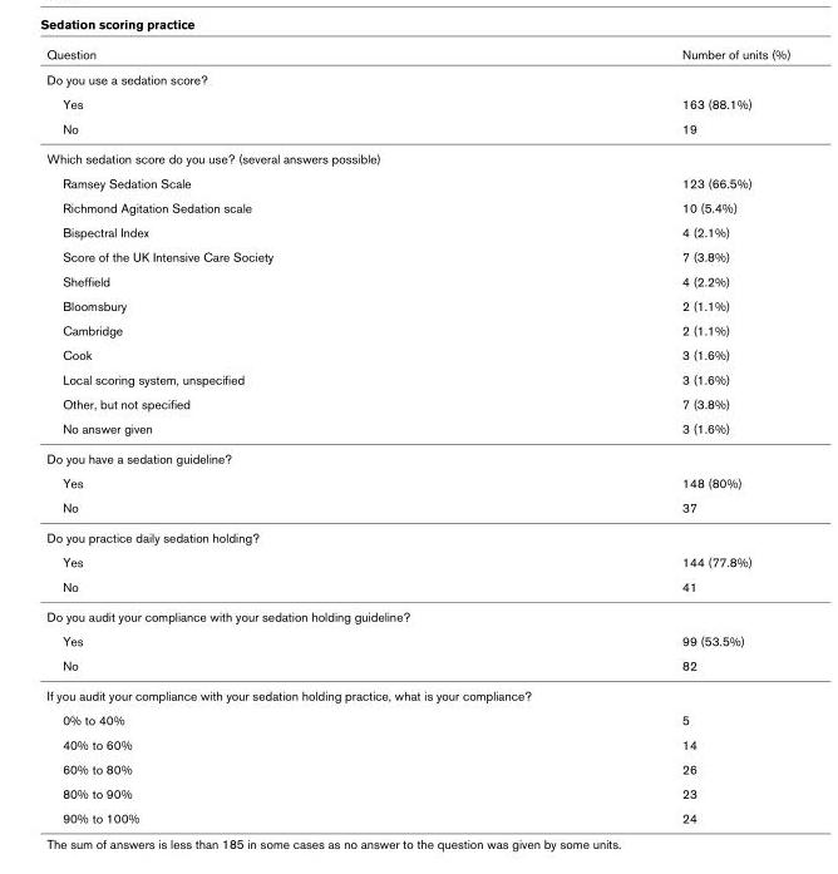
<table><thead><tr><td>Question</td><td>Number of units (%)</td></tr></thead><tbody><tr><td colspan="2">Do you use a sedation score?</td></tr><tr><td>Yes</td><td>163 (88.1%)</td></tr><tr><td>No</td><td>19</td></tr><tr><td colspan="2">Which sedation score do you use? (several answers possible)</td></tr><tr><td>Ramsey Sedation Scale</td><td>123 (66.5%)</td></tr><tr><td>Richmond Agitation Sedation scale</td><td>10 (5.4%)</td></tr><tr><td>Bispectral Index</td><td>4 (2.1%)</td></tr><tr><td>Score of the UK Intensive Care Society</td><td>7 (3.8%)</td></tr><tr><td>Sheffield</td><td>4 (2.2%)</td></tr><tr><td>Bloomsbury</td><td>2 (1.1%)</td></tr><tr><td>Cambridge</td><td>2 (1.1%)</td></tr><tr><td>Cook</td><td>3 (1.6%)</td></tr><tr><td>Local scoring system, unspecified</td><td>3 (1.6%)</td></tr><tr><td>Other, but not specified</td><td>7 (3.8%)</td></tr><tr><td>No answer given</td><td>3 (1.6%)</td></tr><tr><td colspan="2">Do you have a sedation guideline?</td></tr><tr><td>Yes</td><td>148 (80%)</td></tr><tr><td>No</td><td>37</td></tr><tr><td colspan="2">Do you practice daily sedation holding?</td></tr><tr><td>Yes</td><td>144 (77.8%)</td></tr><tr><td>No</td><td>41</td></tr><tr><td colspan="2">Do you audit your compliance with your sedation holding guideline?</td></tr><tr><td>Yes</td><td>99 (53.5%)</td></tr><tr><td>No</td><td>82</td></tr><tr><td colspan="2">If you audit your compliance with your sedation holding practice, what is your compliance?</td></tr><tr><td>0% to 40%</td><td>5</td></tr><tr><td>40% to 60%</td><td>14</td></tr><tr><td>60% to 80%</td><td>26</td></tr><tr><td>80% to 90%</td><td>23</td></tr><tr><td>90% to 100%</td><td>24</td></tr></tbody></table>